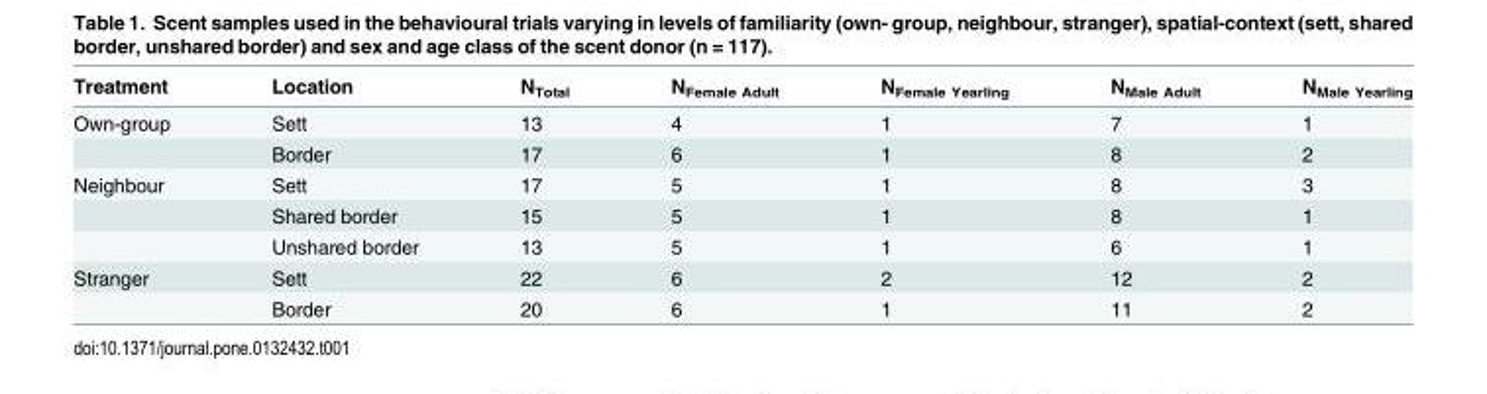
<table><thead><tr><td>Treatment</td><td>Location</td><td>N<sub>Total</sub></td><td>N<sub>Female Adult</sub></td><td>N<sub>Female Yearling</sub></td><td>N<sub>Male Adult</sub></td><td>N<sub>Male Yearling</sub></td></tr></thead><tbody><tr><td rowspan="2">Own-group</td><td>Sett</td><td>13</td><td>4</td><td>1</td><td>7</td><td>1</td></tr><tr><td>Border</td><td>17</td><td>6</td><td>1</td><td>8</td><td>2</td></tr><tr><td rowspan="3">Neighbour</td><td>Sett</td><td>17</td><td>5</td><td>1</td><td>8</td><td>3</td></tr><tr><td>Shared border</td><td>15</td><td>5</td><td>1</td><td>8</td><td>1</td></tr><tr><td>Unshared border</td><td>13</td><td>5</td><td>1</td><td>6</td><td>1</td></tr><tr><td rowspan="2">Stranger</td><td>Sett</td><td>22</td><td>6</td><td>2</td><td>12</td><td>2</td></tr><tr><td>Border</td><td>20</td><td>6</td><td>1</td><td>11</td><td>2</td></tr></tbody></table>